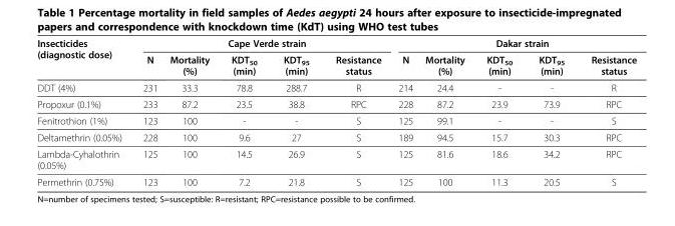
<table><thead><tr><td rowspan="2">Insecticides (diagnostic dose)</td><td colspan="5">Cape Verde strain</td><td colspan="5">Dakar strain</td></tr><tr><td>N</td><td>Mortality (%)</td><td>KDT<sub>50</sub> (min)</td><td>KDT<sub>95</sub> (min)</td><td>Resistance status</td><td>N</td><td>Mortality (%)</td><td>KDT<sub>50</sub> (min)</td><td>KDT<sub>95</sub> (min)</td><td>Resistance status</td></tr></thead><tbody><tr><td>DDT (4%)</td><td>231</td><td>33.3</td><td>78.8</td><td>288.7</td><td>R</td><td>214</td><td>24.4</td><td>-</td><td>-</td><td>R</td></tr><tr><td>Propoxur (0.1%)</td><td>233</td><td>87.2</td><td>23.5</td><td>38.8</td><td>RPC</td><td>228</td><td>87.2</td><td>23.9</td><td>73.9</td><td>RPC</td></tr><tr><td>Fenitrothion (1%)</td><td>123</td><td>100</td><td>-</td><td>-</td><td>S</td><td>125</td><td>99.1</td><td>-</td><td>-</td><td>S</td></tr><tr><td>Deltamethrin (0.05%)</td><td>228</td><td>100</td><td>9.6</td><td>27</td><td>S</td><td>189</td><td>94.5</td><td>15.7</td><td>30.3</td><td>RPC</td></tr><tr><td>Lambda-Cyhalothrin (0.05%)</td><td>125</td><td>100</td><td>14.5</td><td>26.9</td><td>S</td><td>125</td><td>81.6</td><td>18.6</td><td>34.2</td><td>RPC</td></tr><tr><td>Permethrin (0.75%)</td><td>123</td><td>100</td><td>7.2</td><td>21.8</td><td>S</td><td>125</td><td>100</td><td>11.3</td><td>20.5</td><td>S</td></tr></tbody></table>